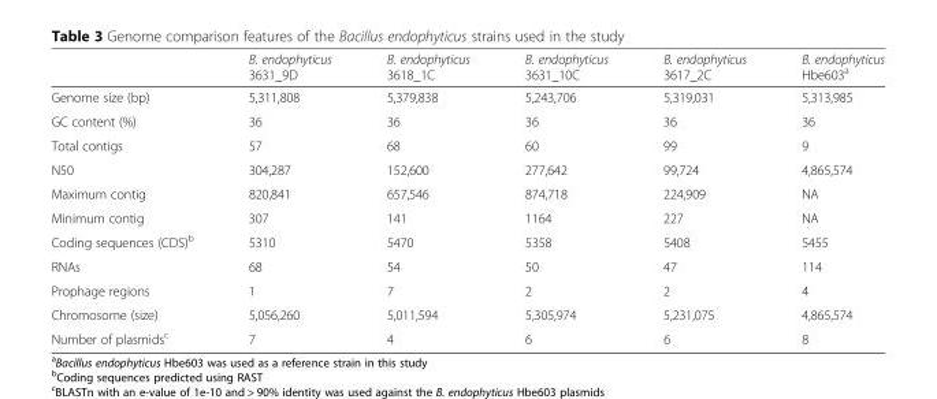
<table><thead><tr><td></td><td>B. endophyticus 3631_9D</td><td>B. endophyticus 3618_1C</td><td>B. endophyticus 3631_10C</td><td>B. endophyticus 3617_2C</td><td>B. endophyticus Hbe603<sup>a</sup></td></tr></thead><tbody><tr><td>Genome size (bp)</td><td>5,311,808</td><td>5,379,838</td><td>5,243,706</td><td>5,319,031</td><td>5,313,985</td></tr><tr><td>GC content (%)</td><td>36</td><td>36</td><td>36</td><td>36</td><td>36</td></tr><tr><td>Total contigs</td><td>57</td><td>68</td><td>60</td><td>99</td><td>9</td></tr><tr><td>N50</td><td>304,287</td><td>152,600</td><td>277,642</td><td>99,724</td><td>4,865,574</td></tr><tr><td>Maximum contig</td><td>820,841</td><td>657,546</td><td>874,718</td><td>224,909</td><td>NA</td></tr><tr><td>Minimum contig</td><td>307</td><td>141</td><td>1164</td><td>227</td><td>NA</td></tr><tr><td>Coding sequences (CDS)<sup>b</sup></td><td>5310</td><td>5470</td><td>5358</td><td>5408</td><td>5455</td></tr><tr><td>RNAs</td><td>68</td><td>54</td><td>50</td><td>47</td><td>114</td></tr><tr><td>Prophage regions</td><td>1</td><td>7</td><td>2</td><td>2</td><td>4</td></tr><tr><td>Chromosome (size)</td><td>5,056,260</td><td>5,011,594</td><td>5,305,974</td><td>5,231,075</td><td>4,865,574</td></tr><tr><td>Number of plasmids<sup>c</sup></td><td>7</td><td>4</td><td>6</td><td>6</td><td>8</td></tr></tbody></table>